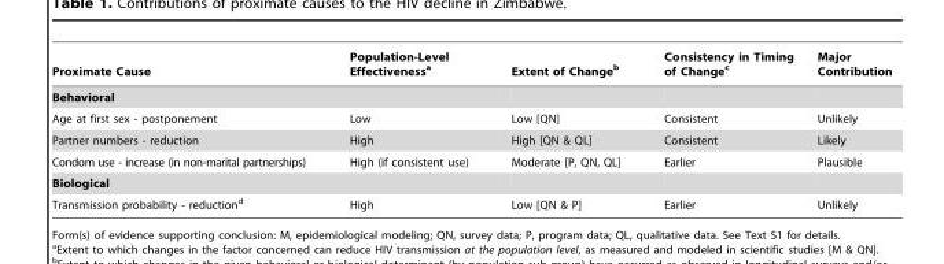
<table><thead><tr><td>Proximate Cause</td><td>Population-Level Effectiveness<sup>a</sup></td><td>Extent of Change<sup>b</sup></td><td>Consistency in Timing of Change<sup>c</sup></td><td>Major Contribution</td></tr></thead><tbody><tr><td colspan="5">Behavioral</td></tr><tr><td>Age at first sex - postponement</td><td>Low</td><td>Low [QN]</td><td>Consistent</td><td>Unlikely</td></tr><tr><td>Partner numbers - reduction</td><td>High</td><td>High [QN &amp; QL]</td><td>Consistent</td><td>Likely</td></tr><tr><td>Condom use - increase (in non-marital partnerships)</td><td>High (if consistent use)</td><td>Moderate [P, QN, QL]</td><td>Earlier</td><td>Plausible</td></tr><tr><td colspan="5">Biological</td></tr><tr><td>Transmission probability - reduction<sup>d</sup></td><td>High</td><td>Low [QN &amp; P]</td><td>Earlier</td><td>Unlikely</td></tr></tbody></table>